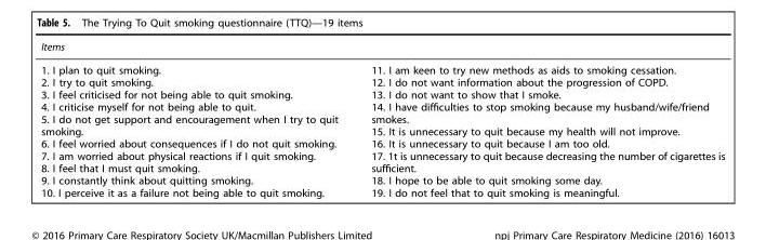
<table><thead><tr><td>Items</td><td></td></tr></thead><tbody><tr><td>1. I plan to quit smoking. 2. I try to quit smoking. 3. I feel criticised for not being able to quit smoking. 4. I criticise myself for not being able to quit. 5. I do not get support and encouragement when I try to quit smoking. 6. I feel worried about consequences if I do not quit smoking. 7. I am worried about physical reactions if I quit smoking. 8. I feel that I must quit smoking. 9. I constantly think about quitting smoking. 10. I perceive it as a failure not being able to quit smoking.</td><td>11. I am keen to try new methods as aids to smoking cessation. 12. I do not want information about the progression of COPD. 13. I do not want to show that I smoke. 14. I have difficulties to stop smoking because my husband/wife/friend smokes. 15. It is unnecessary to quit because my health will not improve. 16. It is unnecessary to quit because I am too old. 17. 1t is unnecessary to quit because decreasing the number of cigarettes is sufficient. 18. I hope to be able to quit smoking some day. 19. I do not feel that to quit smoking is meaningful.</td></tr></tbody></table>